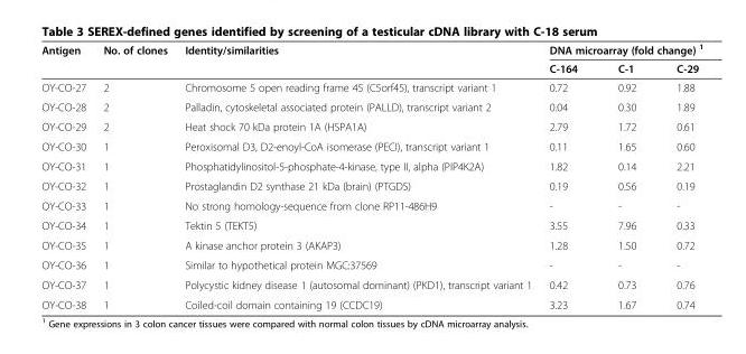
<table><thead><tr><td rowspan="2">Antigen</td><td rowspan="2">No. of clones</td><td rowspan="2">Identity/similarities</td><td colspan="3">DNA microarray (fold change) <sup>1</sup></td></tr><tr><td>C-164</td><td>C-1</td><td>C-29</td></tr></thead><tbody><tr><td>OY-CO-27</td><td>2</td><td>Chromosome 5 open reading frame 45 (C5orf45), transcript variant 1</td><td>0.72</td><td>0.92</td><td>1.88</td></tr><tr><td>OY-CO-28</td><td>2</td><td>Palladin, cytoskeletal associated protein (PALLD), transcript variant 2</td><td>0.04</td><td>0.30</td><td>1.89</td></tr><tr><td>OY-CO-29</td><td>2</td><td>Heat shock 70 kDa protein 1A (HSPA1A)</td><td>2.79</td><td>1.72</td><td>0.61</td></tr><tr><td>OY-CO-30</td><td>1</td><td>Peroxisomal D3, D2-enoyl-CoA isomerase (PECI), transcript variant 1</td><td>0.11</td><td>1.65</td><td>0.60</td></tr><tr><td>OY-CO-31</td><td>1</td><td>Phosphatidylinositol-5-phosphate-4-kinase, type II, alpha (PIP4K2A)</td><td>1.82</td><td>0.14</td><td>2.21</td></tr><tr><td>OY-CO-32</td><td>1</td><td>Prostaglandin D2 synthase 21 kDa (brain) (PTGDS)</td><td>0.19</td><td>0.56</td><td>0.19</td></tr><tr><td>OY-CO-33</td><td>1</td><td>No strong homology-sequence from clone RP11-486H9</td><td>-</td><td>-</td><td>-</td></tr><tr><td>OY-CO-34</td><td>1</td><td>Tektin 5 (TEKT5)</td><td>3.55</td><td>7.96</td><td>0.33</td></tr><tr><td>OY-CO-35</td><td>1</td><td>A kinase anchor protein 3 (AKAP3)</td><td>1.28</td><td>1.50</td><td>0.72</td></tr><tr><td>OY-CO-36</td><td>1</td><td>Similar to hypothetical protein MGC:37569</td><td>-</td><td>-</td><td>-</td></tr><tr><td>OY-CO-37</td><td>1</td><td>Polycystic kidney disease 1 (autosomal dominant) (PKD1), transcript variant 1</td><td>0.42</td><td>0.73</td><td>0.76</td></tr><tr><td>OY-CO-38</td><td>1</td><td>Coiled-coil domain containing 19 (CCDC19)</td><td>3.23</td><td>1.67</td><td>0.74</td></tr></tbody></table>